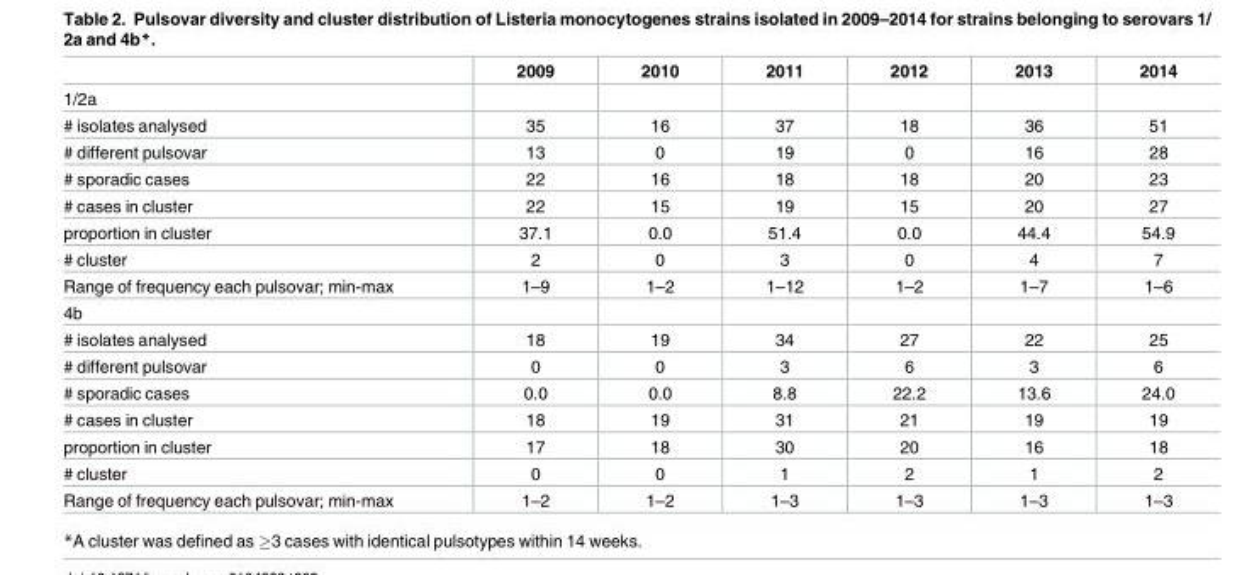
<table><thead><tr><td></td><td>2009</td><td>2010</td><td>2011</td><td>2012</td><td>2013</td><td>2014</td></tr></thead><tbody><tr><td colspan="7">1/2a</td></tr><tr><td># isolates analysed</td><td>35</td><td>16</td><td>37</td><td>18</td><td>36</td><td>51</td></tr><tr><td># different pulsovar</td><td>13</td><td>0</td><td>19</td><td>0</td><td>16</td><td>28</td></tr><tr><td># sporadic cases</td><td>22</td><td>16</td><td>18</td><td>18</td><td>20</td><td>23</td></tr><tr><td># cases in cluster</td><td>22</td><td>15</td><td>19</td><td>15</td><td>20</td><td>27</td></tr><tr><td>proportion in cluster</td><td>37.1</td><td>0.0</td><td>51.4</td><td>0.0</td><td>44.4</td><td>54.9</td></tr><tr><td># cluster</td><td>2</td><td>0</td><td>3</td><td>0</td><td>4</td><td>7</td></tr><tr><td>Range of frequency each pulsovar; min-max</td><td>1–9</td><td>1–2</td><td>1–12</td><td>1–2</td><td>1–7</td><td>1–6</td></tr><tr><td colspan="7">4b</td></tr><tr><td># isolates analysed</td><td>18</td><td>19</td><td>34</td><td>27</td><td>22</td><td>25</td></tr><tr><td># different pulsovar</td><td>0</td><td>0</td><td>3</td><td>6</td><td>3</td><td>6</td></tr><tr><td># sporadic cases</td><td>0.0</td><td>0.0</td><td>8.8</td><td>22.2</td><td>13.6</td><td>24.0</td></tr><tr><td># cases in cluster</td><td>18</td><td>19</td><td>31</td><td>21</td><td>19</td><td>19</td></tr><tr><td>proportion in cluster</td><td>17</td><td>18</td><td>30</td><td>20</td><td>16</td><td>18</td></tr><tr><td># cluster</td><td>0</td><td>0</td><td>1</td><td>2</td><td>1</td><td>2</td></tr><tr><td>Range of frequency each pulsovar; min-max</td><td>1–2</td><td>1–2</td><td>1–3</td><td>1–3</td><td>1–3</td><td>1–3</td></tr></tbody></table>